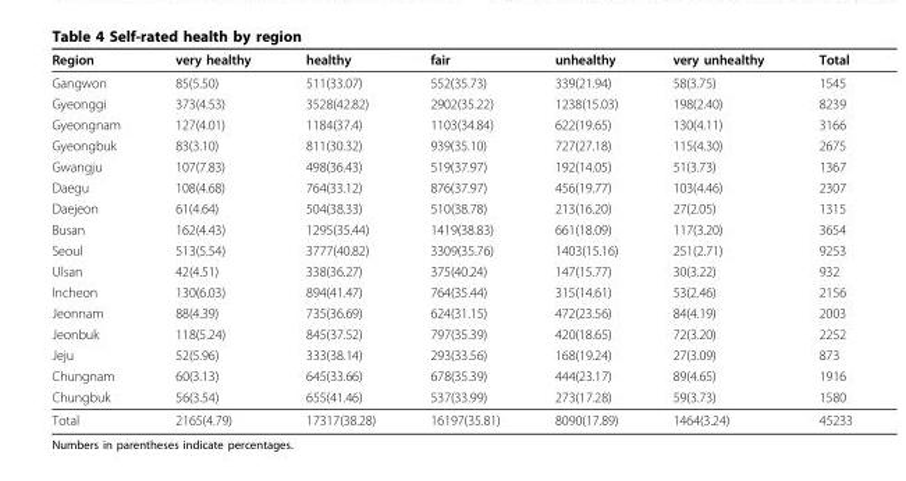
<table><thead><tr><td>Region</td><td>very healthy</td><td>healthy</td><td>fair</td><td>unhealthy</td><td>very unhealthy</td><td>Total</td></tr></thead><tbody><tr><td>Gangwon</td><td>85(5.50)</td><td>511(33.07)</td><td>552(35.73)</td><td>339(21.94)</td><td>58(3.75)</td><td>1545</td></tr><tr><td>Gyeonggi</td><td>373(4.53)</td><td>3528(42.82)</td><td>2902(35.22)</td><td>1238(15.03)</td><td>198(2.40)</td><td>8239</td></tr><tr><td>Gyeongnam</td><td>127(4.01)</td><td>1184(37.4)</td><td>1103(34.84)</td><td>622(19.65)</td><td>130(4.11)</td><td>3166</td></tr><tr><td>Gyeongbuk</td><td>83(3.10)</td><td>811(30.32)</td><td>939(35.10)</td><td>727(27.18)</td><td>115(4.30)</td><td>2675</td></tr><tr><td>Gwangju</td><td>107(7.83)</td><td>498(36.43)</td><td>519(37.97)</td><td>192(14.05)</td><td>51(3.73)</td><td>1367</td></tr><tr><td>Daegu</td><td>108(4.68)</td><td>764(33.12)</td><td>876(37.97)</td><td>456(19.77)</td><td>103(4.46)</td><td>2307</td></tr><tr><td>Daejeon</td><td>61(4.64)</td><td>504(38.33)</td><td>510(38.78)</td><td>213(16.20)</td><td>27(2.05)</td><td>1315</td></tr><tr><td>Busan</td><td>162(4.43)</td><td>1295(35.44)</td><td>1419(38.83)</td><td>661(18.09)</td><td>117(3.20)</td><td>3654</td></tr><tr><td>Seoul</td><td>513(5.54)</td><td>3777(40.82)</td><td>3309(35.76)</td><td>1403(15.16)</td><td>251(2.71)</td><td>9253</td></tr><tr><td>Ulsan</td><td>42(4.51)</td><td>338(36.27)</td><td>375(40.24)</td><td>147(15.77)</td><td>30(3.22)</td><td>932</td></tr><tr><td>Incheon</td><td>130(6.03)</td><td>894(41.47)</td><td>764(35.44)</td><td>315(14.61)</td><td>53(2.46)</td><td>2156</td></tr><tr><td>Jeonnam</td><td>88(4.39)</td><td>735(36.69)</td><td>624(31.15)</td><td>472(23.56)</td><td>84(4.19)</td><td>2003</td></tr><tr><td>Jeonbuk</td><td>118(5.24)</td><td>845(37.52)</td><td>797(35.39)</td><td>420(18.65)</td><td>72(3.20)</td><td>2252</td></tr><tr><td>Jeju</td><td>52(5.96)</td><td>333(38.14)</td><td>293(33.56)</td><td>168(19.24)</td><td>27(3.09)</td><td>873</td></tr><tr><td>Chungnam</td><td>60(3.13)</td><td>645(33.66)</td><td>678(35.39)</td><td>444(23.17)</td><td>89(4.65)</td><td>1916</td></tr><tr><td>Chungbuk</td><td>56(3.54)</td><td>655(41.46)</td><td>537(33.99)</td><td>273(17.28)</td><td>59(3.73)</td><td>1580</td></tr><tr><td>Total</td><td>2165(4.79)</td><td>17317(38.28)</td><td>16197(35.81)</td><td>8090(17.89)</td><td>1464(3.24)</td><td>45233</td></tr></tbody></table>